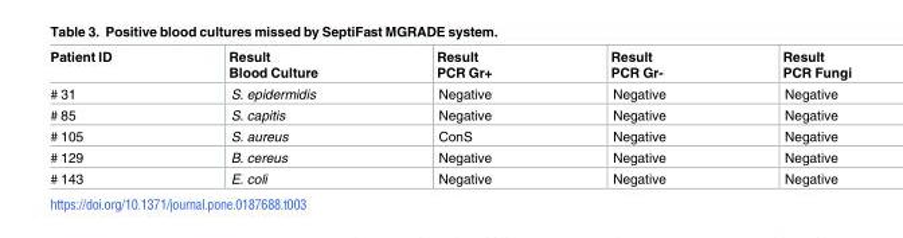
<table><thead><tr><td>Patient ID</td><td>Result Blood Culture</td><td>Result PCR Gr+</td><td>Result PCR Gr-</td><td>Result PCR Fungi</td></tr></thead><tbody><tr><td># 31</td><td>S. epidermidis</td><td>Negative</td><td>Negative</td><td>Negative</td></tr><tr><td># 85</td><td>S. capitis</td><td>Negative</td><td>Negative</td><td>Negative</td></tr><tr><td># 105</td><td>S. aureus</td><td>ConS</td><td>Negative</td><td>Negative</td></tr><tr><td># 129</td><td>B. cereus</td><td>Negative</td><td>Negative</td><td>Negative</td></tr><tr><td># 143</td><td>E. coli</td><td>Negative</td><td>Negative</td><td>Negative</td></tr></tbody></table>